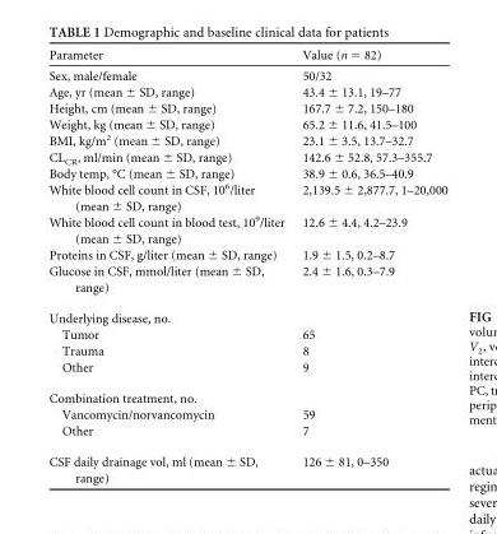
<table><thead><tr><td>Parameter</td><td>Value (n = 82)</td></tr></thead><tbody><tr><td>Sex, male/female</td><td>50/32</td></tr><tr><td>Age, yr (mean ± SD, range)</td><td>43.4 ± 13.1, 19–77</td></tr><tr><td>Height, cm (mean ± SD, range)</td><td>167.7 ± 7.2, 150–180</td></tr><tr><td>Weight, kg (mean ± SD, range)</td><td>65.2 ± 11.6, 41.5–100</td></tr><tr><td>BMI, kg/m<sup>2</sup> (mean ± SD, range)</td><td>23.1 ± 3.5, 13.7–32.7</td></tr><tr><td>CL<sub>CR</sub>, ml/min (mean ± SD, range)</td><td>142.6 ± 52.8, 57.3–355.7</td></tr><tr><td>Body temp, °C (mean ± SD, range)</td><td>38.9 ± 0.6, 36.5–40.9</td></tr><tr><td>White blood cell count in CSF, 10<sup>6</sup>/liter (mean ± SD, range)</td><td>2,139.5 ± 2,877.7, 1–20,000</td></tr><tr><td>White blood cell count in blood test, 10<sup>9</sup>/liter (mean ± SD, range)</td><td>12.6 ± 4.4, 4.2–23.9</td></tr><tr><td>Proteins in CSF, g/liter (mean ± SD, range)</td><td>1.9 ± 1.5, 0.2–8.7</td></tr><tr><td>Glucose in CSF, mmol/liter (mean ± SD, range)</td><td>2.4 ± 1.6, 0.3–7.9</td></tr><tr><td colspan="2">Underlying disease, no.</td></tr><tr><td>Tumor</td><td>65</td></tr><tr><td>Trauma</td><td>8</td></tr><tr><td>Other</td><td>9</td></tr><tr><td colspan="2">Combination treatment, no.</td></tr><tr><td>Vancomycin/norvancomycin</td><td>59</td></tr><tr><td>Other</td><td>7</td></tr><tr><td>CSF daily drainage vol, ml (mean ± SD, range)</td><td>126 ± 81, 0–350</td></tr></tbody></table>